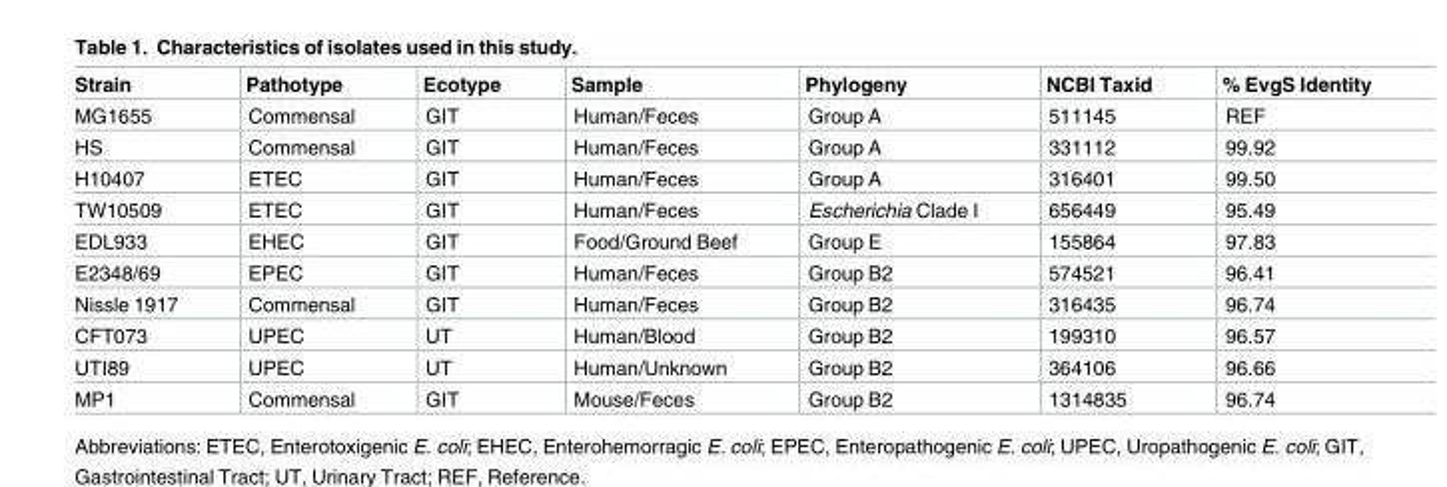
<table><thead><tr><td>Strain</td><td>Pathotype</td><td>Ecotype</td><td>Sample</td><td>Phylogeny</td><td>NCBI Taxid</td><td>% EvgS Identity</td></tr></thead><tbody><tr><td>MG1655</td><td>Commensal</td><td>GIT</td><td>Human/Feces</td><td>Group A</td><td>511145</td><td>REF</td></tr><tr><td>HS</td><td>Commensal</td><td>GIT</td><td>Human/Feces</td><td>Group A</td><td>331112</td><td>99.92</td></tr><tr><td>H10407</td><td>ETEC</td><td>GIT</td><td>Human/Feces</td><td>Group A</td><td>316401</td><td>99.50</td></tr><tr><td>TW10509</td><td>ETEC</td><td>GIT</td><td>Human/Feces</td><td>Escherichia Clade I</td><td>656449</td><td>95.49</td></tr><tr><td>EDL933</td><td>EHEC</td><td>GIT</td><td>Food/Ground Beef</td><td>Group E</td><td>155864</td><td>97.83</td></tr><tr><td>E2348/69</td><td>EPEC</td><td>GIT</td><td>Human/Feces</td><td>Group B2</td><td>574521</td><td>96.41</td></tr><tr><td>Nissle 1917</td><td>Commensal</td><td>GIT</td><td>Human/Feces</td><td>Group B2</td><td>316435</td><td>96.74</td></tr><tr><td>CFT073</td><td>UPEC</td><td>UT</td><td>Human/Blood</td><td>Group B2</td><td>199310</td><td>96.57</td></tr><tr><td>UTI89</td><td>UPEC</td><td>UT</td><td>Human/Unknown</td><td>Group B2</td><td>364106</td><td>96.66</td></tr><tr><td>MP1</td><td>Commensal</td><td>GIT</td><td>Mouse/Feces</td><td>Group B2</td><td>1314835</td><td>96.74</td></tr></tbody></table>